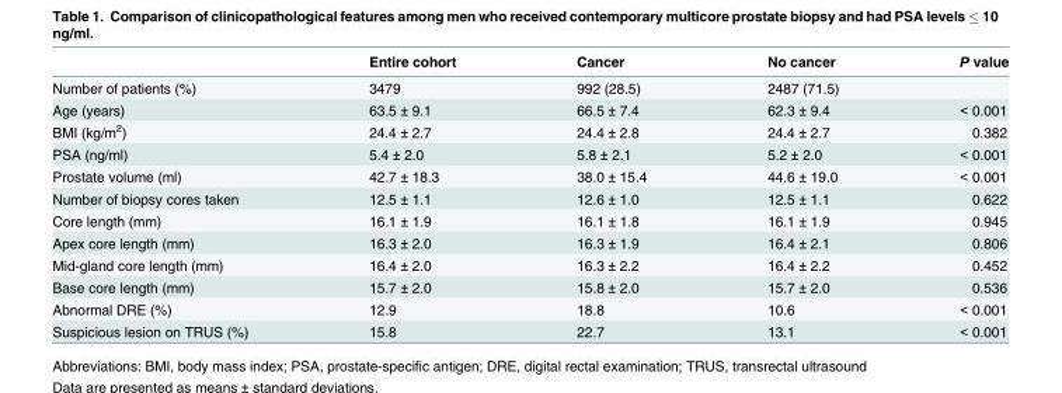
<table><thead><tr><td></td><td>Entire cohort</td><td>Cancer</td><td>No cancer</td><td>P value</td></tr></thead><tbody><tr><td>Number of patients (%)</td><td>3479</td><td>992 (28.5)</td><td>2487 (71.5)</td><td></td></tr><tr><td>Age (years)</td><td>63.5 ± 9.1</td><td>66.5 ± 7.4</td><td>62.3 ± 9.4</td><td>&lt; 0.001</td></tr><tr><td>BMI (kg/m<sup>2</sup>)</td><td>24.4 ± 2.7</td><td>24.4 ± 2.8</td><td>24.4 ± 2.7</td><td>0.382</td></tr><tr><td>PSA (ng/ml)</td><td>5.4 ± 2.0</td><td>5.8 ± 2.1</td><td>5.2 ± 2.0</td><td>&lt; 0.001</td></tr><tr><td>Prostate volume (ml)</td><td>42.7 ± 18.3</td><td>38.0 ± 15.4</td><td>44.6 ± 19.0</td><td>&lt; 0.001</td></tr><tr><td>Number of biopsy cores taken</td><td>12.5 ± 1.1</td><td>12.6 ± 1.0</td><td>12.5 ± 1.1</td><td>0.622</td></tr><tr><td>Core length (mm)</td><td>16.1 ± 1.9</td><td>16.1 ± 1.8</td><td>16.1 ± 1.9</td><td>0.945</td></tr><tr><td>Apex core length (mm)</td><td>16.3 ± 2.0</td><td>16.3 ± 1.9</td><td>16.4 ± 2.1</td><td>0.806</td></tr><tr><td>Mid-gland core length (mm)</td><td>16.4 ± 2.0</td><td>16.3 ± 2.2</td><td>16.4 ± 2.2</td><td>0.452</td></tr><tr><td>Base core length (mm)</td><td>15.7 ± 2.0</td><td>15.8 ± 2.0</td><td>15.7 ± 2.0</td><td>0.536</td></tr><tr><td>Abnormal DRE (%)</td><td>12.9</td><td>18.8</td><td>10.6</td><td>&lt; 0.001</td></tr><tr><td>Suspicious lesion on TRUS (%)</td><td>15.8</td><td>22.7</td><td>13.1</td><td>&lt; 0.001</td></tr></tbody></table>